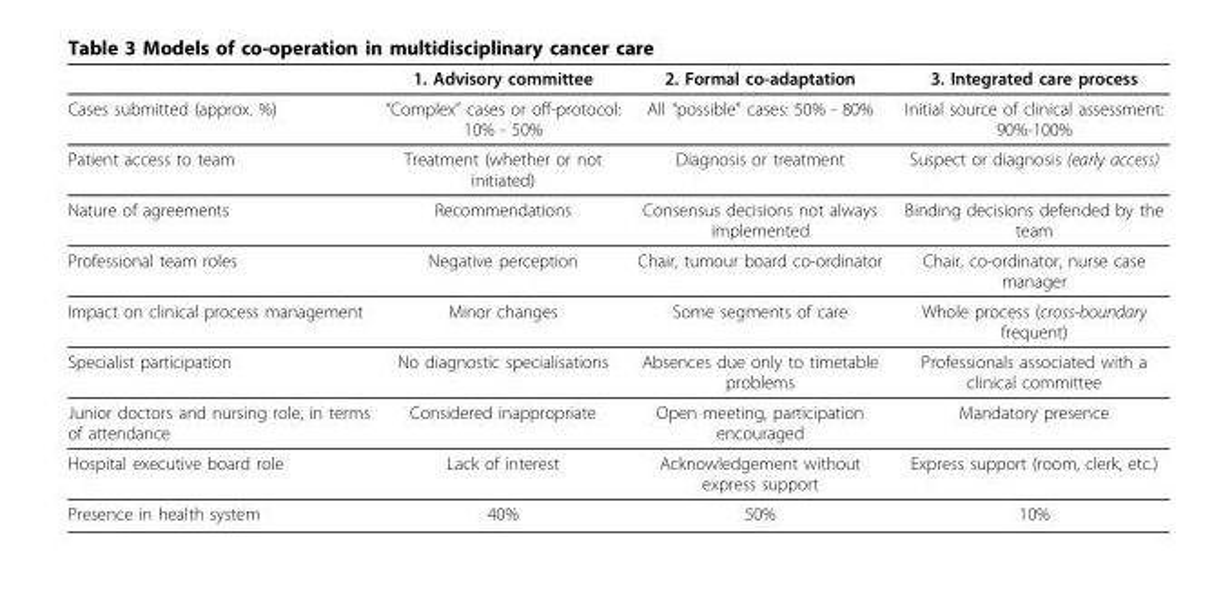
<table><thead><tr><td></td><td>1. Advisory committee</td><td>2. Formal co-adaptation</td><td>3. Integrated care process</td></tr></thead><tbody><tr><td>Cases submitted (approx. %)</td><td>“Complex” cases or off-protocol: 10% - 50%</td><td>All “possible” cases: 50% - 80%</td><td>Initial source of clinical assessment: 90%-100%</td></tr><tr><td>Patient access to team</td><td>Treatment (whether or not initiated)</td><td>Diagnosis or treatment</td><td>Suspect or diagnosis (early access)</td></tr><tr><td>Nature of agreements</td><td>Recommendations</td><td>Consensus decisions not always implemented</td><td>Binding decisions defended by the team</td></tr><tr><td>Professional team roles</td><td>Negative perception</td><td>Chair, tumour board co-ordinator</td><td>Chair, co-ordinator, nurse case manager</td></tr><tr><td>Impact on clinical process management</td><td>Minor changes</td><td>Some segments of care</td><td>Whole process (cross-boundary frequent)</td></tr><tr><td>Specialist participation</td><td>No diagnostic specialisations</td><td>Absences due only to timetable problems</td><td>Professionals associated with a clinical committee</td></tr><tr><td>Junior doctors and nursing role, in terms of attendance</td><td>Considered inappropriate</td><td>Open meeting, participation encouraged</td><td>Mandatory presence</td></tr><tr><td>Hospital executive board role</td><td>Lack of interest</td><td>Acknowledgement without express support</td><td>Express support (room, clerk, etc.)</td></tr><tr><td>Presence in health system</td><td>40%</td><td>50%</td><td>10%</td></tr></tbody></table>